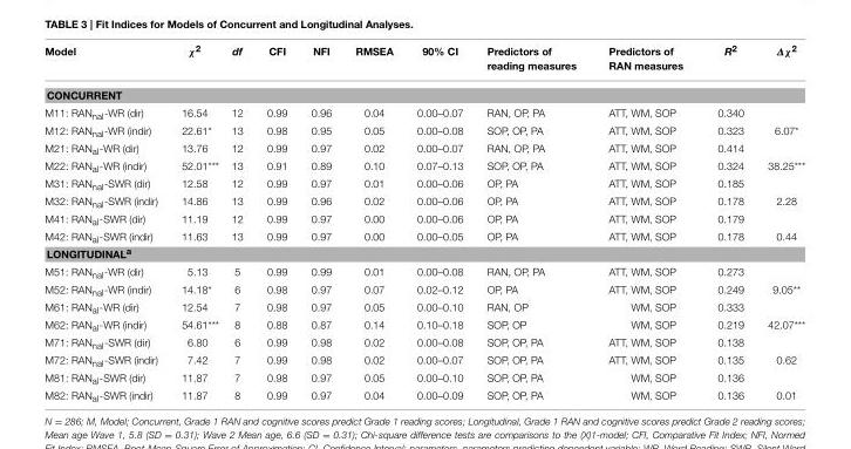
<table><thead><tr><td>Model</td><td>χ<sup>2</sup></td><td>df</td><td>CFI</td><td>NFI</td><td>RMSEA</td><td>90% CI</td><td>Predictors of reading measures</td><td>Predictors of RAN measures</td><td>R<sup>2</sup></td><td>∆χ2</td></tr></thead><tbody><tr><td colspan="11">CONCURRENT</td></tr><tr><td>M11: RAN<sub>nal</sub>-WR (dir)</td><td>16.54</td><td>12</td><td>0.99</td><td>0.96</td><td>0.04</td><td>0.00–0.07</td><td>RAN, OP, PA</td><td>ATT, WM, SOP</td><td>0.340</td><td></td></tr><tr><td>M12: RAN<sub>nal</sub>-WR (indir)</td><td>22.61*</td><td>13</td><td>0.98</td><td>0.95</td><td>0.05</td><td>0.00–0.08</td><td>SOP, OP, PA</td><td>ATT, WM, SOP</td><td>0.323</td><td>6.07*</td></tr><tr><td>M21: RAN<sub>al</sub>-WR (dir)</td><td>13.76</td><td>12</td><td>0.99</td><td>0.97</td><td>0.02</td><td>0.00–0.07</td><td>RAN, OP, PA</td><td>ATT, WM, SOP</td><td>0.414</td><td></td></tr><tr><td>M22: RAN<sub>al</sub>-WR (indir)</td><td>52.01***</td><td>13</td><td>0.91</td><td>0.89</td><td>0.10</td><td>0.07–0.13</td><td>SOP, OP, PA</td><td>ATT, WM, SOP</td><td>0.324</td><td>38.25***</td></tr><tr><td>M31: RAN<sub>nal</sub>-SWR (dir)</td><td>12.58</td><td>12</td><td>0.99</td><td>0.97</td><td>0.01</td><td>0.00–0.06</td><td>OP, PA</td><td>ATT, WM, SOP</td><td>0.185</td><td></td></tr><tr><td>M32: RAN<sub>nal</sub>-SWR (indir)</td><td>14.86</td><td>13</td><td>0.99</td><td>0.96</td><td>0.02</td><td>0.00–0.06</td><td>OP, PA</td><td>ATT, WM, SOP</td><td>0.178</td><td>2.28</td></tr><tr><td>M41: RAN<sub>al</sub>-SWR (dir)</td><td>11.19</td><td>12</td><td>0.99</td><td>0.97</td><td>0.00</td><td>0.00–0.06</td><td>OP, PA</td><td>ATT, WM, SOP</td><td>0.179</td><td></td></tr><tr><td>M42: RAN<sub>al</sub>-SWR (indir)</td><td>11.63</td><td>13</td><td>0.99</td><td>0.97</td><td>0.00</td><td>0.00–0.05</td><td>OP, PA</td><td>ATT, WM, SOP</td><td>0.178</td><td>0.44</td></tr><tr><td colspan="11">LONGITUDINAL<sup>a</sup></td></tr><tr><td>M51: RAN<sub>nal</sub>-WR (dir)</td><td>5.13</td><td>5</td><td>0.99</td><td>0.99</td><td>0.01</td><td>0.00–0.08</td><td>RAN, OP, PA</td><td>ATT, WM, SOP</td><td>0.273</td><td></td></tr><tr><td>M52: RAN<sub>nal</sub>-WR (indir)</td><td>14.18*</td><td>6</td><td>0.98</td><td>0.97</td><td>0.07</td><td>0.02–0.12</td><td>OP, PA</td><td>ATT, WM, SOP</td><td>0.249</td><td>9.05**</td></tr><tr><td>M61: RAN<sub>al</sub>-WR (dir)</td><td>12.54</td><td>7</td><td>0.98</td><td>0.97</td><td>0.05</td><td>0.00–0.10</td><td>RAN, OP</td><td>WM, SOP</td><td>0.333</td><td></td></tr><tr><td>M62: RAN<sub>al</sub>-WR (indir)</td><td>54.61***</td><td>8</td><td>0.88</td><td>0.87</td><td>0.14</td><td>0.10–0.18</td><td>SOP, OP</td><td>WM, SOP</td><td>0.219</td><td>42.07***</td></tr><tr><td>M71: RAN<sub>nal</sub>-SWR (dir)</td><td>6.80</td><td>6</td><td>0.99</td><td>0.98</td><td>0.02</td><td>0.00–0.08</td><td>SOP, OP, PA</td><td>ATT, WM, SOP</td><td>0.138</td><td></td></tr><tr><td>M72: RAN<sub>nal</sub>-SWR (indir)</td><td>7.42</td><td>7</td><td>0.99</td><td>0.98</td><td>0.02</td><td>0.00–0.07</td><td>SOP, OP, PA</td><td>ATT, WM, SOP</td><td>0.135</td><td>0.62</td></tr><tr><td>M81: RAN<sub>al</sub>-SWR (dir)</td><td>11.87</td><td>7</td><td>0.98</td><td>0.97</td><td>0.05</td><td>0.00–0.10</td><td>SOP, OP, PA</td><td>WM, SOP</td><td>0.136</td><td></td></tr><tr><td>M82: RAN<sub>al</sub>-SWR (indir)</td><td>11.87</td><td>8</td><td>0.99</td><td>0.97</td><td>0.04</td><td>0.00–0.09</td><td>SOP, OP, PA</td><td>WM, SOP</td><td>0.136</td><td>0.01</td></tr></tbody></table>